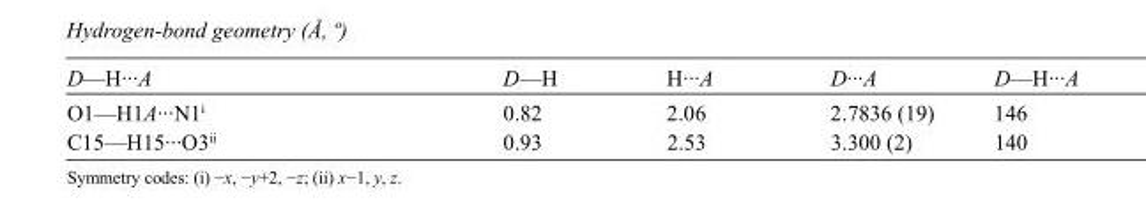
<table><tbody><tr><td>D—H···A</td><td>D—H</td><td>H···A</td><td>D···A</td><td>D—H···A</td></tr><tr><td>O1—H1A···N1<sup>i</sup></td><td>0.82</td><td>2.06</td><td>2.7836 (19)</td><td>146</td></tr><tr><td>C15—H15···O3<sup>ii</sup></td><td>0.93</td><td>2.53</td><td>3.300 (2)</td><td>140</td></tr></tbody></table>